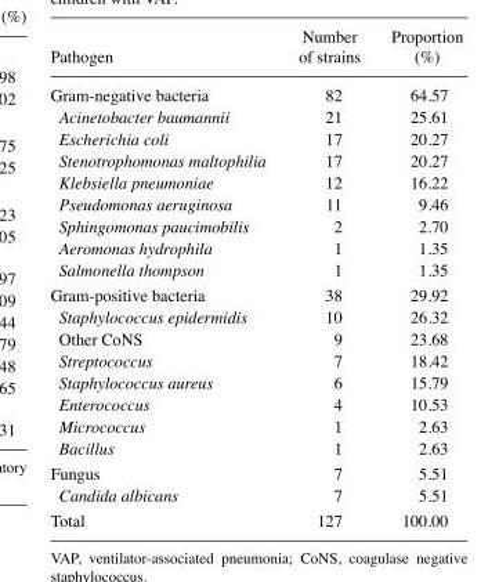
<table><thead><tr><td>Pathogen</td><td>of strains</td><td>(%)</td></tr></thead><tbody><tr><td>Gram-negative bacteria</td><td>82</td><td>64.57</td></tr><tr><td>Acinetobacter baumannii</td><td>21</td><td>25.61</td></tr><tr><td>Escherichia coli</td><td>17</td><td>20.27</td></tr><tr><td>Stenotrophomonas maltophilia</td><td>17</td><td>20.27</td></tr><tr><td>Klebsiella pneumoniae</td><td>12</td><td>16.22</td></tr><tr><td>Pseudomonas aeruginosa</td><td>11</td><td>9.46</td></tr><tr><td>Sphingomonas paucimobilis</td><td>2</td><td>2.70</td></tr><tr><td>Aeromonas hydrophila</td><td>1</td><td>1.35</td></tr><tr><td>Salmonella thompson</td><td>1</td><td>1.35</td></tr><tr><td>Gram-positive bacteria</td><td>38</td><td>29.92</td></tr><tr><td>Staphylococcus epidermidis</td><td>10</td><td>26.32</td></tr><tr><td>Other CoNS</td><td>9</td><td>23.68</td></tr><tr><td>Streptococcus</td><td>7</td><td>18.42</td></tr><tr><td>Staphylococcus aureus</td><td>6</td><td>15.79</td></tr><tr><td>Enterococcus</td><td>4</td><td>10.53</td></tr><tr><td>Micrococcus</td><td>1</td><td>2.63</td></tr><tr><td>Bacillus</td><td>1</td><td>2.63</td></tr><tr><td>Fungus</td><td>7</td><td>5.51</td></tr><tr><td>Candida albicans</td><td>7</td><td>5.51</td></tr><tr><td>Total</td><td>127</td><td>100.00</td></tr></tbody></table>